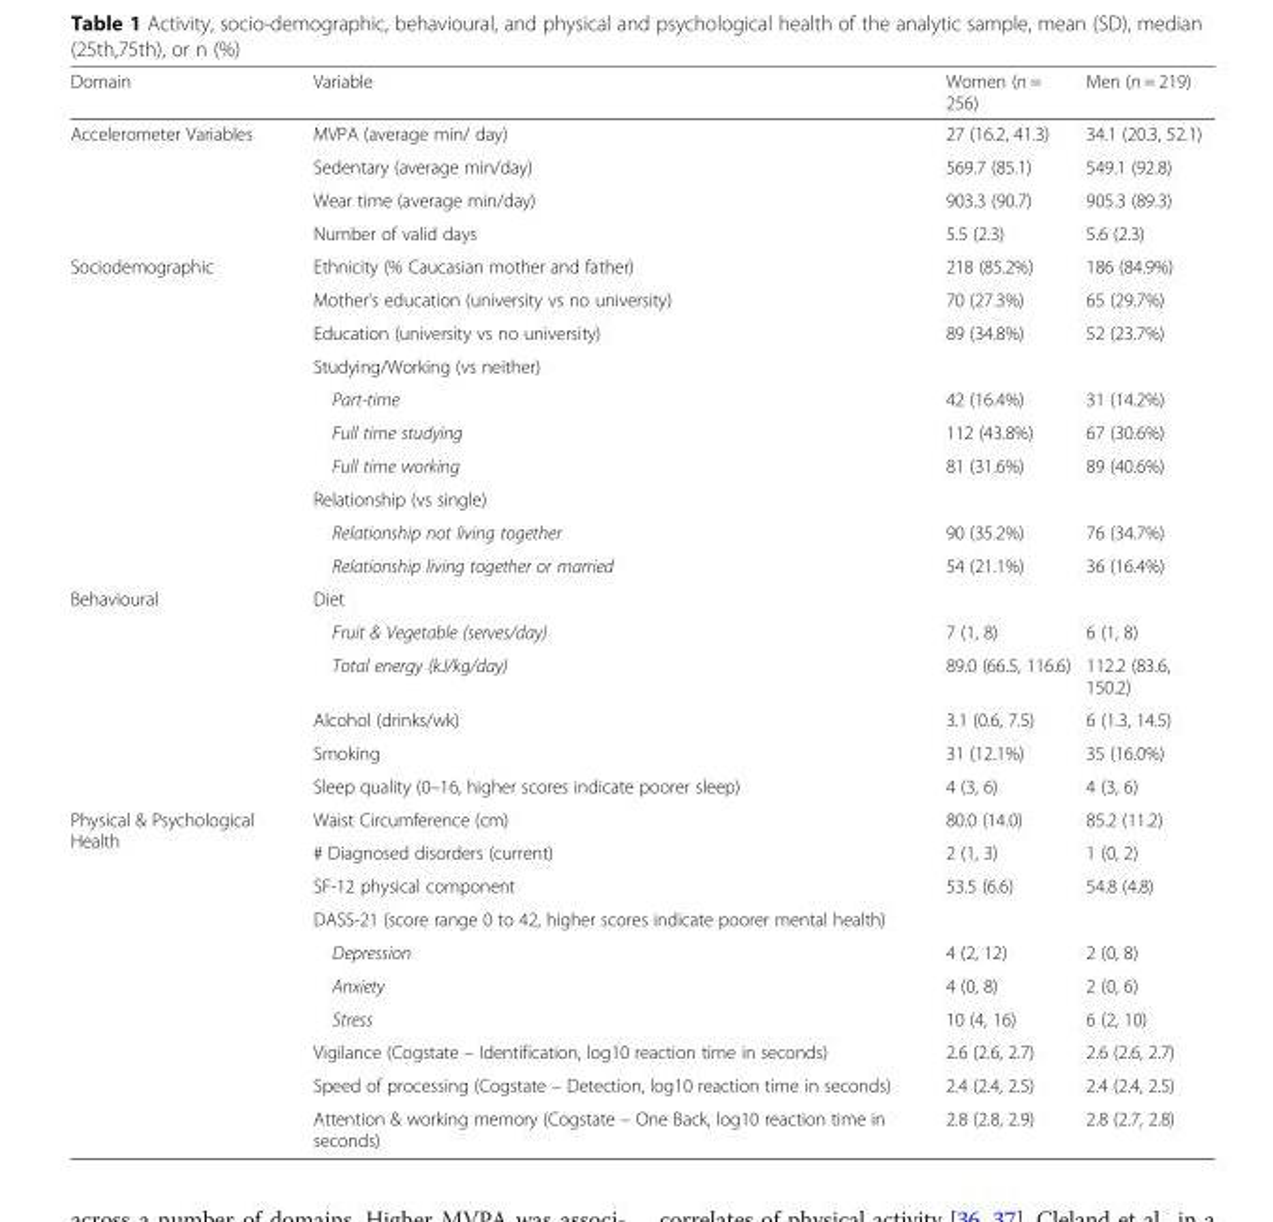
<table><thead><tr><td>Domain</td><td>Variable</td><td>Women (n = 256)</td><td>Men (n = 219)</td></tr></thead><tbody><tr><td rowspan="4">Accelerometer Variables</td><td>MVPA (average min/ day)</td><td>27 (16.2, 41.3)</td><td>34.1 (20.3, 52.1)</td></tr><tr><td>Sedentary (average min/day)</td><td>569.7 (85.1)</td><td>549.1 (92.8)</td></tr><tr><td>Wear time (average min/day)</td><td>903.3 (90.7)</td><td>905.3 (89.3)</td></tr><tr><td>Number of valid days</td><td>5.5 (2.3)</td><td>5.6 (2.3)</td></tr><tr><td rowspan="10">Sociodemographic</td><td>Ethnicity (% Caucasian mother and father)</td><td>218 (85.2%)</td><td>186 (84.9%)</td></tr><tr><td>Mother’s education (university vs no university)</td><td>70 (27.3%)</td><td>65 (29.7%)</td></tr><tr><td>Education (university vs no university)</td><td>89 (34.8%)</td><td>52 (23.7%)</td></tr><tr><td colspan="3">Studying/Working (vs neither)</td></tr><tr><td>Part-time</td><td>42 (16.4%)</td><td>31 (14.2%)</td></tr><tr><td>Full time studying</td><td>112 (43.8%)</td><td>67 (30.6%)</td></tr><tr><td>Full time working</td><td>81 (31.6%)</td><td>89 (40.6%)</td></tr><tr><td colspan="3">Relationship (vs single)</td></tr><tr><td>Relationship not living together</td><td>90 (35.2%)</td><td>76 (34.7%)</td></tr><tr><td>Relationship living together or married</td><td>54 (21.1%)</td><td>36 (16.4%)</td></tr><tr><td rowspan="6">Behavioural</td><td colspan="3">Diet</td></tr><tr><td>Fruit &amp; Vegetable (serves/day)</td><td>7 (1, 8)</td><td>6 (1, 8)</td></tr><tr><td>Total energy (kJ/kg/day)</td><td>89.0 (66.5, 116.6)</td><td>112.2 (83.6, 150.2)</td></tr><tr><td>Alcohol (drinks/wk)</td><td>3.1 (0.6, 7.5)</td><td>6 (1.3, 14.5)</td></tr><tr><td>Smoking</td><td>31 (12.1%)</td><td>35 (16.0%)</td></tr><tr><td>Sleep quality (0–16, higher scores indicate poorer sleep)</td><td>4 (3, 6)</td><td>4 (3, 6)</td></tr><tr><td rowspan="10">Physical &amp; Psychological Health</td><td>Waist Circumference (cm)</td><td>80.0 (14.0)</td><td>85.2 (11.2)</td></tr><tr><td># Diagnosed disorders (current)</td><td>2 (1, 3)</td><td>1 (0, 2)</td></tr><tr><td>SF-12 physical component</td><td>53.5 (6.6)</td><td>54.8 (4.8)</td></tr><tr><td colspan="3">DASS-21 (score range 0 to 42, higher scores indicate poorer mental health)</td></tr><tr><td>Depression</td><td>4 (2, 12)</td><td>2 (0, 8)</td></tr><tr><td>Anxiety</td><td>4 (0, 8)</td><td>2 (0, 6)</td></tr><tr><td>Stress</td><td>10 (4, 16)</td><td>6 (2, 10)</td></tr><tr><td>Vigilance (Cogstate – Identification, log10 reaction time in seconds)</td><td>2.6 (2.6, 2.7)</td><td>2.6 (2.6, 2.7)</td></tr><tr><td>Speed of processing (Cogstate – Detection, log10 reaction time in seconds)</td><td>2.4 (2.4, 2.5)</td><td>2.4 (2.4, 2.5)</td></tr><tr><td>Attention &amp; working memory (Cogstate – One Back, log10 reaction time in seconds)</td><td>2.8 (2.8, 2.9)</td><td>2.8 (2.7, 2.8)</td></tr></tbody></table>